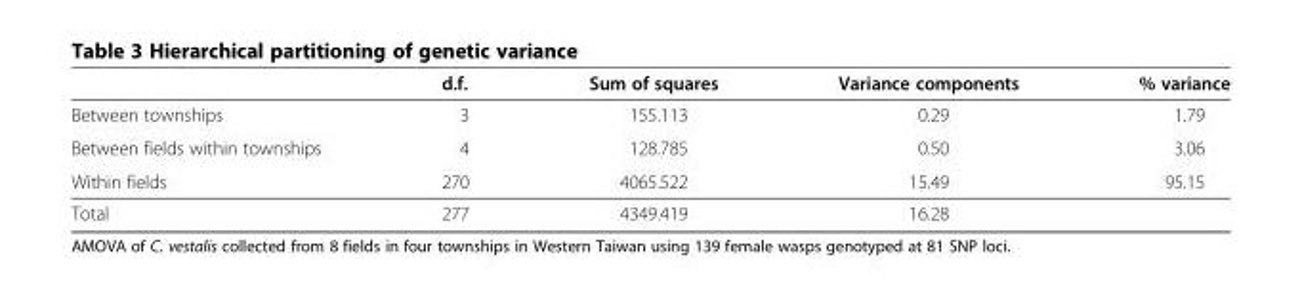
<table><thead><tr><td></td><td>d.f.</td><td>Sum of squares</td><td>Variance components</td><td>% variance</td></tr></thead><tbody><tr><td>Between townships</td><td>3</td><td>155.113</td><td>0.29</td><td>1.79</td></tr><tr><td>Between fields within townships</td><td>4</td><td>128.785</td><td>0.50</td><td>3.06</td></tr><tr><td>Within fields</td><td>270</td><td>4065.522</td><td>15.49</td><td>95.15</td></tr><tr><td>Total</td><td>277</td><td>4349.419</td><td>16.28</td><td></td></tr></tbody></table>